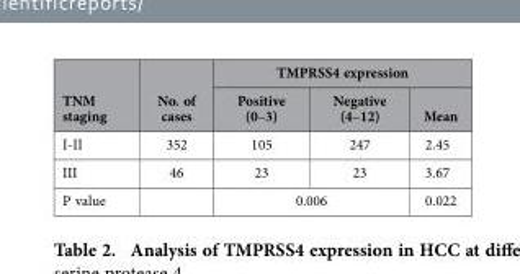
<table><thead><tr><td rowspan="2">TNM staging</td><td rowspan="2">No. of cases</td><td colspan="3">TMPRSS4 expression</td></tr><tr><td>Positive (0–3)</td><td>Negative (4–12)</td><td>Mean</td></tr></thead><tbody><tr><td>I-II</td><td>352</td><td>105</td><td>247</td><td>2.45</td></tr><tr><td>III</td><td>46</td><td>23</td><td>23</td><td>3.67</td></tr><tr><td>P value</td><td></td><td colspan="2">0.006</td><td>0.022</td></tr></tbody></table>